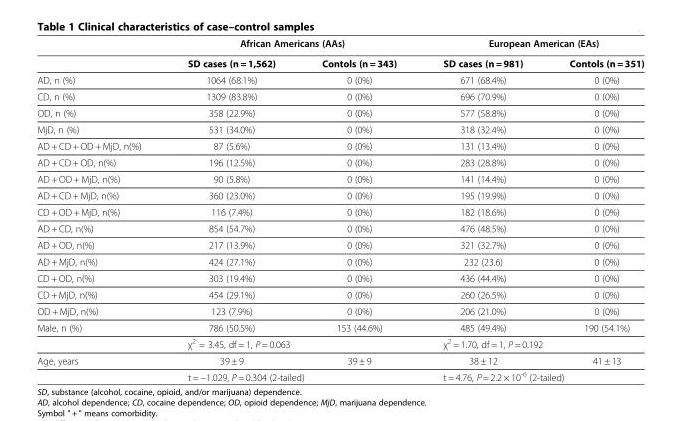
<table><thead><tr><td rowspan="2"></td><td colspan="2">African Americans (AAs)</td><td colspan="2">European American (EAs)</td></tr><tr><td>SD cases (n = 1,562)</td><td>Contols (n = 343)</td><td>SD cases (n = 981)</td><td>Contols (n = 351)</td></tr></thead><tbody><tr><td>AD, n (%)</td><td>1064 (68.1%)</td><td>0 (0%)</td><td>671 (68.4%)</td><td>0 (0%)</td></tr><tr><td>CD, n (%)</td><td>1309 (83.8%)</td><td>0 (0%)</td><td>696 (70.9%)</td><td>0 (0%)</td></tr><tr><td>OD, n (%)</td><td>358 (22.9%)</td><td>0 (0%)</td><td>577 (58.8%)</td><td>0 (0%)</td></tr><tr><td>MjD, n (%)</td><td>531 (34.0%)</td><td>0 (0%)</td><td>318 (32.4%)</td><td>0 (0%)</td></tr><tr><td>AD + CD + OD + MjD, n(%)</td><td>87 (5.6%)</td><td>0 (0%)</td><td>131 (13.4%)</td><td>0 (0%)</td></tr><tr><td>AD + CD + OD, n(%)</td><td>196 (12.5%)</td><td>0 (0%)</td><td>283 (28.8%)</td><td>0 (0%)</td></tr><tr><td>AD + OD + MjD, n(%)</td><td>90 (5.8%)</td><td>0 (0%)</td><td>141 (14.4%)</td><td>0 (0%)</td></tr><tr><td>AD + CD + MjD, n(%)</td><td>360 (23.0%)</td><td>0 (0%)</td><td>195 (19.9%)</td><td>0 (0%)</td></tr><tr><td>CD + OD + MjD, n(%)</td><td>116 (7.4%)</td><td>0 (0%)</td><td>182 (18.6%)</td><td>0 (0%)</td></tr><tr><td>AD + CD, n(%)</td><td>854 (54.7%)</td><td>0 (0%)</td><td>476 (48.5%)</td><td>0 (0%)</td></tr><tr><td>AD + OD, n(%)</td><td>217 (13.9%)</td><td>0 (0%)</td><td>321 (32.7%)</td><td>0 (0%)</td></tr><tr><td>AD + MjD, n(%)</td><td>424 (27.1%)</td><td>0 (0%)</td><td>232 (23.6)</td><td>0 (0%)</td></tr><tr><td>CD + OD, n(%)</td><td>303 (19.4%)</td><td>0 (0%)</td><td>436 (44.4%)</td><td>0 (0%)</td></tr><tr><td>CD + MjD, n(%)</td><td>454 (29.1%)</td><td>0 (0%)</td><td>260 (26.5%)</td><td>0 (0%)</td></tr><tr><td>OD + MjD, n(%)</td><td>123 (7.9%)</td><td>0 (0%)</td><td>206 (21.0%)</td><td>0 (0%)</td></tr><tr><td rowspan="2">Male, n (%)</td><td>786 (50.5%)</td><td>153 (44.6%)</td><td>485 (49.4%)</td><td>190 (54.1%)</td></tr><tr><td>χ<sup>2</sup> = 3.45, df = 1, P = 0.063</td><td></td><td>χ<sup>2</sup> = 1.70, df = 1, P = 0.192</td><td></td></tr><tr><td rowspan="2">Age, years</td><td>39 ± 9</td><td>39 ± 9</td><td>38 ± 12</td><td>41 ± 13</td></tr><tr><td>t = −1.029, P = 0.304 (2-tailed)</td><td></td><td>t = 4.76, P = 2.2 × 10<sup>-6</sup> (2-tailed)</td><td></td></tr></tbody></table>